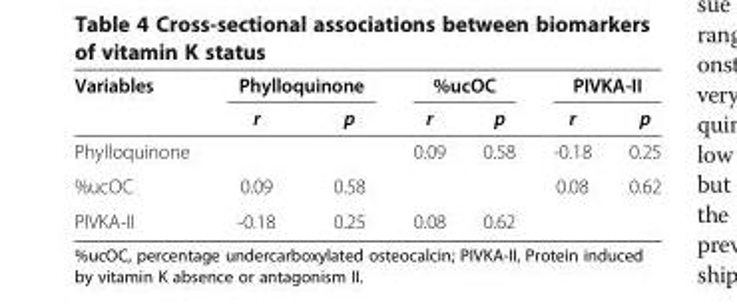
<table><thead><tr><td rowspan="2">Variables</td><td colspan="2">Phylloquinone</td><td colspan="2">%ucOC</td><td colspan="2">PIVKA-II</td></tr><tr><td>r</td><td>p</td><td>r</td><td>p</td><td>r</td><td>p</td></tr></thead><tbody><tr><td>Phylloquinone</td><td></td><td></td><td>0.09</td><td>0.58</td><td>-0.18</td><td>0.25</td></tr><tr><td>%ucOC</td><td>0.09</td><td>0.58</td><td></td><td></td><td>0.08</td><td>0.62</td></tr><tr><td>PIVKA-II</td><td>-0.18</td><td>0.25</td><td>0.08</td><td>0.62</td><td></td><td></td></tr></tbody></table>